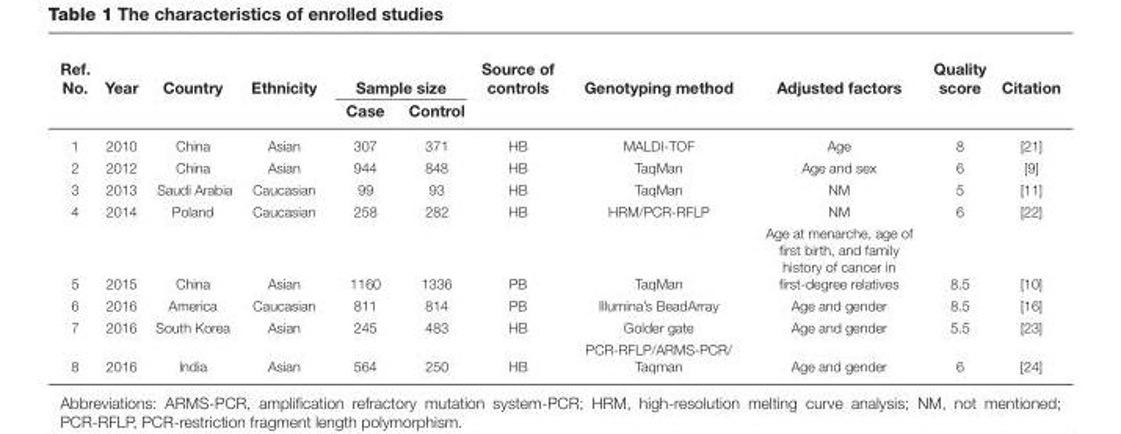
<table><thead><tr><td rowspan="2">Ref. No.</td><td rowspan="2">Year</td><td rowspan="2">Country</td><td rowspan="2">Ethnicity</td><td colspan="2">Sample size</td><td rowspan="2">Source of controls</td><td rowspan="2">Genotyping method</td><td rowspan="2">Adjusted factors</td><td rowspan="2">Quality score</td><td rowspan="2">Citation</td></tr><tr><td>Case</td><td>Control</td></tr></thead><tbody><tr><td>1</td><td>2010</td><td>China</td><td>Asian</td><td>307</td><td>371</td><td>HB</td><td>MALDI-TOF</td><td>Age</td><td>8</td><td>[21]</td></tr><tr><td>2</td><td>2012</td><td>China</td><td>Asian</td><td>944</td><td>848</td><td>HB</td><td>TaqMan</td><td>Age and sex</td><td>6</td><td>[9]</td></tr><tr><td>3</td><td>2013</td><td>Saudi Arabia</td><td>Caucasian</td><td>99</td><td>93</td><td>HB</td><td>TaqMan</td><td>NM</td><td>5</td><td>[11]</td></tr><tr><td>4</td><td>2014</td><td>Poland</td><td>Caucasian</td><td>258</td><td>282</td><td>HB</td><td>HRM/PCR-RFLP</td><td>NM</td><td>6</td><td>[22]</td></tr><tr><td>5</td><td>2015</td><td>China</td><td>Asian</td><td>1160</td><td>1336</td><td>PB</td><td>TaqMan</td><td>Age at menarche, age of first birth, and family history of cancer in first-degree relatives</td><td>8.5</td><td>[10]</td></tr><tr><td>6</td><td>2016</td><td>America</td><td>Caucasian</td><td>811</td><td>814</td><td>PB</td><td>Illumina’s BeadArray</td><td>Age and gender</td><td>8.5</td><td>[16]</td></tr><tr><td>7</td><td>2016</td><td>South Korea</td><td>Asian</td><td>245</td><td>483</td><td>HB</td><td>Golder gate</td><td>Age and gender</td><td>5.5</td><td>[23]</td></tr><tr><td>8</td><td>2016</td><td>India</td><td>Asian</td><td>564</td><td>250</td><td>HB</td><td>PCR-RFLP/ARMS-PCR/ Taqman</td><td>Age and gender</td><td>6</td><td>[24]</td></tr></tbody></table>